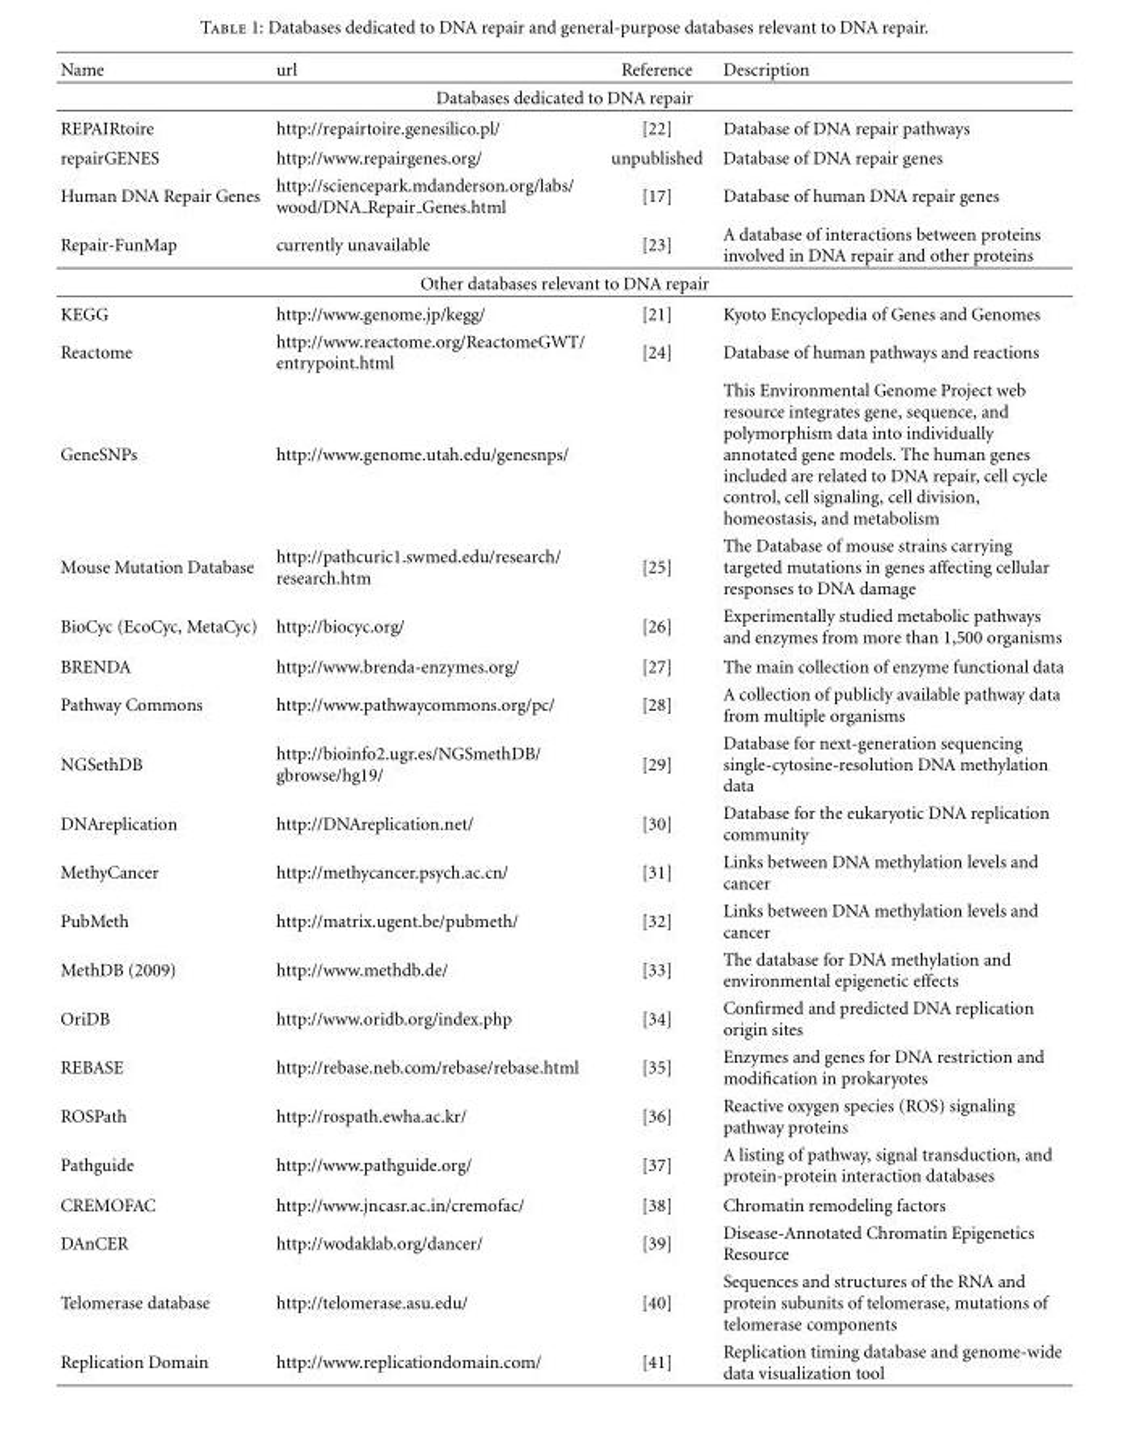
<table><thead><tr><td>Name</td><td>url</td><td>Reference</td><td>Description</td></tr></thead><tbody><tr><td colspan="4">Databases dedicated to DNA repair</td></tr><tr><td>REPAIRtoire</td><td>http://repairtoire.genesilico.pl/</td><td>[22]</td><td>Database of DNA repair pathways</td></tr><tr><td>repairGENES</td><td>http://www.repairgenes.org/</td><td>unpublished</td><td>Database of DNA repair genes</td></tr><tr><td>Human DNA Repair Genes</td><td>http://sciencepark.mdanderson.org/labs/ wood/DNA <sub>Repair</sub> Genes.html</td><td>[17]</td><td>Database of human DNA repair genes</td></tr><tr><td>Repair-FunMap</td><td>currently unavailable</td><td>[23]</td><td>A database of interactions between proteins involved in DNA repair and other proteins</td></tr><tr><td colspan="4">Other databases relevant to DNA repair</td></tr><tr><td>KEGG</td><td>http://www.genome.jp/kegg/</td><td>[21]</td><td>Kyoto Encyclopedia of Genes and Genomes</td></tr><tr><td>Reactome</td><td>http://www.reactome.org/ReactomeGWT/ entrypoint.html</td><td>[24]</td><td>Database of human pathways and reactions</td></tr><tr><td>GeneSNPs</td><td>http://www.genome.utah.edu/genesnps/</td><td></td><td>This Environmental Genome Project web resource integrates gene, sequence, and polymorphism data into individually annotated gene models. The human genes included are related to DNA repair, cell cycle control, cell signaling, cell division, homeostasis, and metabolism</td></tr><tr><td>Mouse Mutation Database</td><td>http://pathcuric1.swmed.edu/research/ research.htm</td><td>[25]</td><td>The Database of mouse strains carrying targeted mutations in genes affecting cellular responses to DNA damage</td></tr><tr><td>BioCyc (EcoCyc, MetaCyc)</td><td>http://biocyc.org/</td><td>[26]</td><td>Experimentally studied metabolic pathways and enzymes from more than 1,500 organisms</td></tr><tr><td>BRENDA</td><td>http://www.brenda-enzymes.org/</td><td>[27]</td><td>The main collection of enzyme functional data</td></tr><tr><td>Pathway Commons</td><td>http://www.pathwaycommons.org/pc/</td><td>[28]</td><td>A collection of publicly available pathway data from multiple organisms</td></tr><tr><td>NGSethDB</td><td>http://bioinfo2.ugr.es/NGSmethDB/ gbrowse/hg19/</td><td>[29]</td><td>Database for next-generation sequencing single-cytosine-resolution DNA methylation data</td></tr><tr><td>DNAreplication</td><td>http://DNAreplication.net/</td><td>[30]</td><td>Database for the eukaryotic DNA replication community</td></tr><tr><td>MethyCancer</td><td>http://methycancer.psych.ac.cn/</td><td>[31]</td><td>Links between DNA methylation levels and cancer</td></tr><tr><td>PubMeth</td><td>http://matrix.ugent.be/pubmeth/</td><td>[32]</td><td>Links between DNA methylation levels and cancer</td></tr><tr><td>MethDB (2009)</td><td>http://www.methdb.de/</td><td>[33]</td><td>The database for DNA methylation and environmental epigenetic effects</td></tr><tr><td>OriDB</td><td>http://www.oridb.org/index.php</td><td>[34]</td><td>Confirmed and predicted DNA replication origin sites</td></tr><tr><td>REBASE</td><td>http://rebase.neb.com/rebase/rebase.html</td><td>[35]</td><td>Enzymes and genes for DNA restriction and modification in prokaryotes</td></tr><tr><td>ROSPath</td><td>http://rospath.ewha.ac.kr/</td><td>[36]</td><td>Reactive oxygen species (ROS) signaling pathway proteins</td></tr><tr><td>Pathguide</td><td>http://www.pathguide.org/</td><td>[37]</td><td>A listing of pathway, signal transduction, and protein-protein interaction databases</td></tr><tr><td>CREMOFAC</td><td>http://www.jncasr.ac.in/cremofac/</td><td>[38]</td><td>Chromatin remodeling factors</td></tr><tr><td>DAnCER</td><td>http://wodaklab.org/dancer/</td><td>[39]</td><td>Disease-Annotated Chromatin Epigenetics Resource</td></tr><tr><td>Telomerase database</td><td>http://telomerase.asu.edu/</td><td>[40]</td><td>Sequences and structures of the RNA and protein subunits of telomerase, mutations of telomerase components</td></tr><tr><td>Replication Domain</td><td>http://www.replicationdomain.com/</td><td>[41]</td><td>Replication timing database and genome-wide data visualization tool</td></tr></tbody></table>